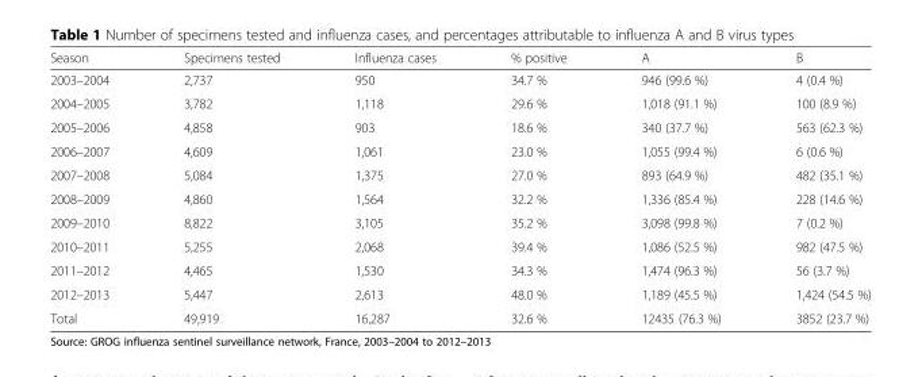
<table><thead><tr><td>Season</td><td>Specimens tested</td><td>Influenza cases</td><td>% positive</td><td>A</td><td>B</td></tr></thead><tbody><tr><td>2003–2004</td><td>2,737</td><td>950</td><td>34.7 %</td><td>946 (99.6 %)</td><td>4 (0.4 %)</td></tr><tr><td>2004–2005</td><td>3,782</td><td>1,118</td><td>29.6 %</td><td>1,018 (91.1 %)</td><td>100 (8.9 %)</td></tr><tr><td>2005–2006</td><td>4,858</td><td>903</td><td>18.6 %</td><td>340 (37.7 %)</td><td>563 (62.3 %)</td></tr><tr><td>2006–2007</td><td>4,609</td><td>1,061</td><td>23.0 %</td><td>1,055 (99.4 %)</td><td>6 (0.6 %)</td></tr><tr><td>2007–2008</td><td>5,084</td><td>1,375</td><td>27.0 %</td><td>893 (64.9 %)</td><td>482 (35.1 %)</td></tr><tr><td>2008–2009</td><td>4,860</td><td>1,564</td><td>32.2 %</td><td>1,336 (85.4 %)</td><td>228 (14.6 %)</td></tr><tr><td>2009–2010</td><td>8,822</td><td>3,105</td><td>35.2 %</td><td>3,098 (99.8 %)</td><td>7 (0.2 %)</td></tr><tr><td>2010–2011</td><td>5,255</td><td>2,068</td><td>39.4 %</td><td>1,086 (52.5 %)</td><td>982 (47.5 %)</td></tr><tr><td>2011–2012</td><td>4,465</td><td>1,530</td><td>34.3 %</td><td>1,474 (96.3 %)</td><td>56 (3.7 %)</td></tr><tr><td>2012–2013</td><td>5,447</td><td>2,613</td><td>48.0 %</td><td>1,189 (45.5 %)</td><td>1,424 (54.5 %)</td></tr><tr><td>Total</td><td>49,919</td><td>16,287</td><td>32.6 %</td><td>12435 (76.3 %)</td><td>3852 (23.7 %)</td></tr></tbody></table>